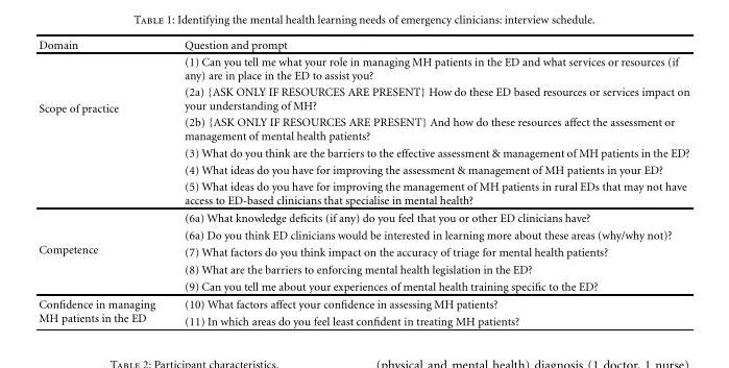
<table><thead><tr><td>Domain</td><td>Question and prompt</td></tr></thead><tbody><tr><td rowspan="6">Scope of practice</td><td>(1) Can you tell me what your role in managing MH patients in the ED and what services or resources (if any) are in place in the ED to assist you?</td></tr><tr><td>(2a) {ASK ONLY IF RESOURCES ARE PRESENT} How do these ED based resources or services impact on your understanding of MH?</td></tr><tr><td>(2b) {ASK ONLY IF RESOURCES ARE PRESENT} And how do these resources affect the assessment or management of mental health patients?</td></tr><tr><td>(3) What do you think are the barriers to the effective assessment &amp; management of MH patients in the ED?</td></tr><tr><td>(4) What ideas do you have for improving the assessment &amp; management of MH patients in your ED?</td></tr><tr><td>(5) What ideas do you have for improving the management of MH patients in rural EDs that may not have access to ED-based clinicians that specialise in mental health?</td></tr><tr><td rowspan="5">Competence</td><td>(6a) What knowledge deficits (if any) do you feel that you or other ED clinicians have?</td></tr><tr><td>(6a) Do you think ED clinicians would be interested in learning more about these areas (why/why not)?</td></tr><tr><td>(7) What factors do you think impact on the accuracy of triage for mental health patients?</td></tr><tr><td>(8) What are the barriers to enforcing mental health legislation in the ED?</td></tr><tr><td>(9) Can you tell me about your experiences of mental health training specific to the ED?</td></tr><tr><td rowspan="2">Confidence in managing MH patients in the ED</td><td>(10) What factors affect your confidence in assessing MH patients?</td></tr><tr><td>(11) In which areas do you feel least confident in treating MH patients?</td></tr></tbody></table>